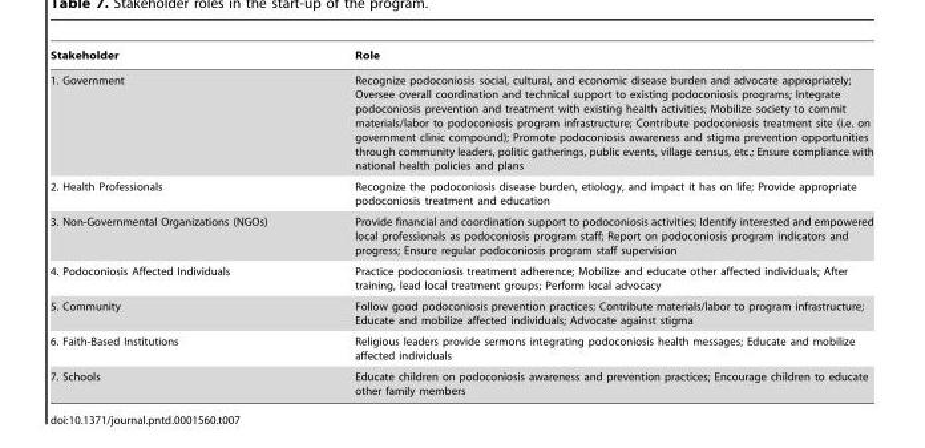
<table><thead><tr><td>Stakeholder</td><td>Role</td></tr></thead><tbody><tr><td>1. Government</td><td>Recognize podoconiosis social, cultural, and economic disease burden and advocate appropriately; Oversee overall coordination and technical support to existing podoconiosis programs; Integrate podoconiosis prevention and treatment with existing health activities; Mobilize society to commit materials/labor to podoconiosis program infrastructure; Contribute podoconiosis treatment site (i.e. on government clinic compound); Promote podoconiosis awareness and stigma prevention opportunities through community leaders, politic gatherings, public events, village census, etc.; Ensure compliance with national health policies and plans</td></tr><tr><td>2. Health Professionals</td><td>Recognize the podoconiosis disease burden, etiology, and impact it has on life; Provide appropriate podoconiosis treatment and education</td></tr><tr><td>3. Non-Governmental Organizations (NGOs)</td><td>Provide financial and coordination support to podoconiosis activities; Identify interested and empowered local professionals as podoconiosis program staff; Report on podoconiosis program indicators and progress; Ensure regular podoconiosis program staff supervision</td></tr><tr><td>4. Podoconiosis Affected Individuals</td><td>Practice podoconiosis treatment adherence; Mobilize and educate other affected individuals; After training, lead local treatment groups; Perform local advocacy</td></tr><tr><td>5. Community</td><td>Follow good podoconiosis prevention practices; Contribute materials/labor to program infrastructure; Educate and mobilize affected individuals; Advocate against stigma</td></tr><tr><td>6. Faith-Based Institutions</td><td>Religious leaders provide sermons integrating podoconiosis health messages; Educate and mobilize affected individuals</td></tr><tr><td>7. Schools</td><td>Educate children on podoconiosis awareness and prevention practices; Encourage children to educate other family members</td></tr></tbody></table>